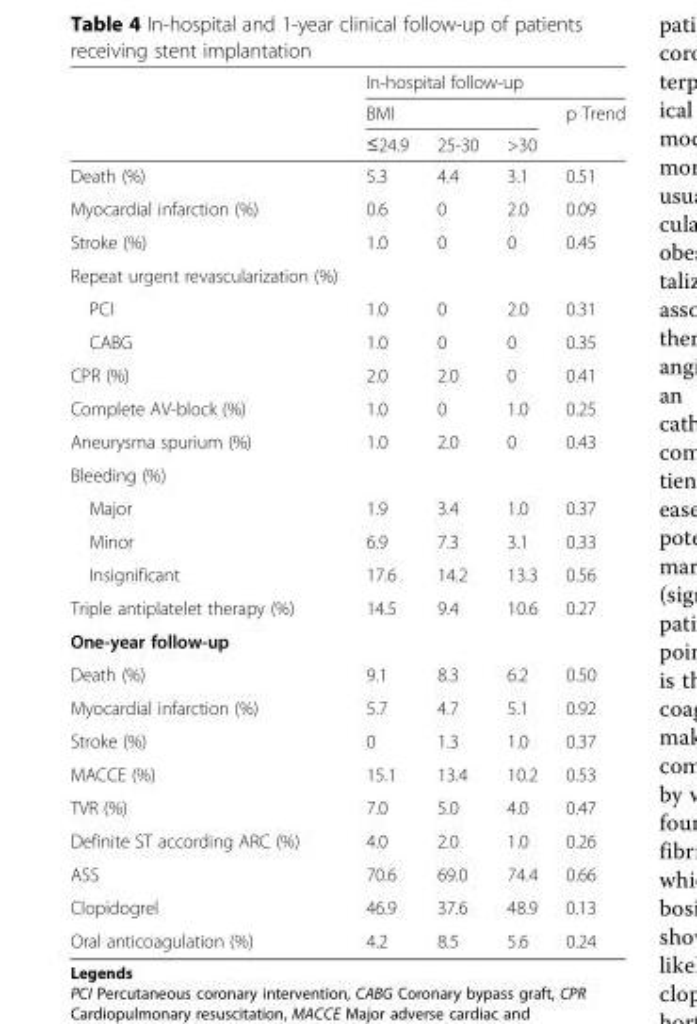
<table><thead><tr><td rowspan="3"></td><td colspan="4">In-hospital follow-up</td></tr><tr><td colspan="3">BMI</td><td rowspan="2">p Trend</td></tr><tr><td>≤24.9</td><td>25-30</td><td>&gt;30</td></tr></thead><tbody><tr><td>Death (%)</td><td>5.3</td><td>4.4</td><td>3.1</td><td>0.51</td></tr><tr><td>Myocardial infarction (%)</td><td>0.6</td><td>0</td><td>2.0</td><td>0.09</td></tr><tr><td>Stroke (%)</td><td>1.0</td><td>0</td><td>0</td><td>0.45</td></tr><tr><td colspan="5">Repeat urgent revascularization (%)</td></tr><tr><td>PCI</td><td>1.0</td><td>0</td><td>2.0</td><td>0.31</td></tr><tr><td>CABG</td><td>1.0</td><td>0</td><td>0</td><td>0.35</td></tr><tr><td>CPR (%)</td><td>2.0</td><td>2.0</td><td>0</td><td>0.41</td></tr><tr><td>Complete AV-block (%)</td><td>1.0</td><td>0</td><td>1.0</td><td>0.25</td></tr><tr><td>Aneurysma spurium (%)</td><td>1.0</td><td>2.0</td><td>0</td><td>0.43</td></tr><tr><td colspan="5">Bleeding (%)</td></tr><tr><td>Major</td><td>1.9</td><td>3.4</td><td>1.0</td><td>0.37</td></tr><tr><td>Minor</td><td>6.9</td><td>7.3</td><td>3.1</td><td>0.33</td></tr><tr><td>Insignificant</td><td>17.6</td><td>14.2</td><td>13.3</td><td>0.56</td></tr><tr><td>Triple antiplatelet therapy (%)</td><td>14.5</td><td>9.4</td><td>10.6</td><td>0.27</td></tr><tr><td colspan="5">One-year follow-up</td></tr><tr><td>Death (%)</td><td>9.1</td><td>8.3</td><td>6.2</td><td>0.50</td></tr><tr><td>Myocardial infarction (%)</td><td>5.7</td><td>4.7</td><td>5.1</td><td>0.92</td></tr><tr><td>Stroke (%)</td><td>0</td><td>1.3</td><td>1.0</td><td>0.37</td></tr><tr><td>MACCE (%)</td><td>15.1</td><td>13.4</td><td>10.2</td><td>0.53</td></tr><tr><td>TVR (%)</td><td>7.0</td><td>5.0</td><td>4.0</td><td>0.47</td></tr><tr><td>Definite ST according ARC (%)</td><td>4.0</td><td>2.0</td><td>1.0</td><td>0.26</td></tr><tr><td>ASS</td><td>70.6</td><td>69.0</td><td>74.4</td><td>0.66</td></tr><tr><td>Clopidogrel</td><td>46.9</td><td>37.6</td><td>48.9</td><td>0.13</td></tr><tr><td>Oral anticoagulation (%)</td><td>4.2</td><td>8.5</td><td>5.6</td><td>0.24</td></tr></tbody></table>